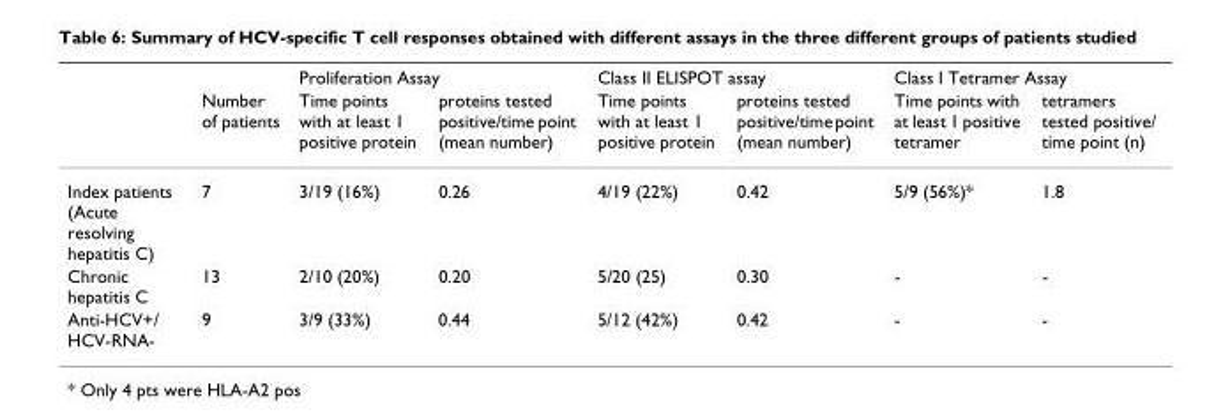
<table><thead><tr><td rowspan="2"></td><td rowspan="2">Number of patients</td><td colspan="2">Proliferation Assay</td><td colspan="2">Class II ELISPOT assay</td><td colspan="2">Class I Tetramer Assay</td></tr><tr><td>Time points with at least 1 positive protein</td><td>proteins tested positive/time point (mean number)</td><td>Time points with at least 1 positive protein</td><td>proteins tested positive/time point (mean number)</td><td>Time points with at least 1 positive tetramer</td><td>tetramers tested positive/ time point (n)</td></tr></thead><tbody><tr><td>Index patients (Acute resolving hepatitis C)</td><td>7</td><td>3/19 (16%)</td><td>0.26</td><td>4/19 (22%)</td><td>0.42</td><td>5/9 (56%)*</td><td>1.8</td></tr><tr><td>Chronic hepatitis C</td><td>13</td><td>2/10 (20%)</td><td>0.20</td><td>5/20 (25)</td><td>0.30</td><td>-</td><td>-</td></tr><tr><td>Anti-HCV+/ HCV-RNA-</td><td>9</td><td>3/9 (33%)</td><td>0.44</td><td>5/12 (42%)</td><td>0.42</td><td>-</td><td>-</td></tr></tbody></table>